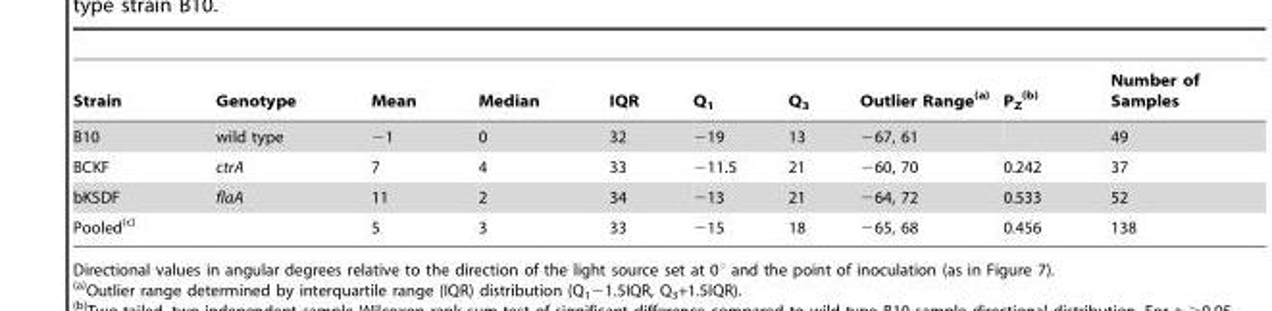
<table><thead><tr><td>Strain</td><td>Genotype</td><td>Mean</td><td>Median</td><td>IQR</td><td>Q<sub>1</sub></td><td>Q<sub>3</sub></td><td>Outlier Range(a)</td><td>P<sub>Z</sub> (b)</td><td>Number of Samples</td></tr></thead><tbody><tr><td>B10</td><td>wild type</td><td>−1</td><td>0</td><td>32</td><td>−19</td><td>13</td><td>−67, 61</td><td></td><td>49</td></tr><tr><td>BCKF</td><td>ctrA</td><td>7</td><td>4</td><td>33</td><td>−11.5</td><td>21</td><td>−60, 70</td><td>0.242</td><td>37</td></tr><tr><td>bKSDF</td><td>flaA</td><td>11</td><td>2</td><td>34</td><td>−13</td><td>21</td><td>−64, 72</td><td>0.533</td><td>52</td></tr><tr><td>Pooled(c)</td><td></td><td>5</td><td>3</td><td>33</td><td>−15</td><td>18</td><td>−65, 68</td><td>0.456</td><td>138</td></tr></tbody></table>